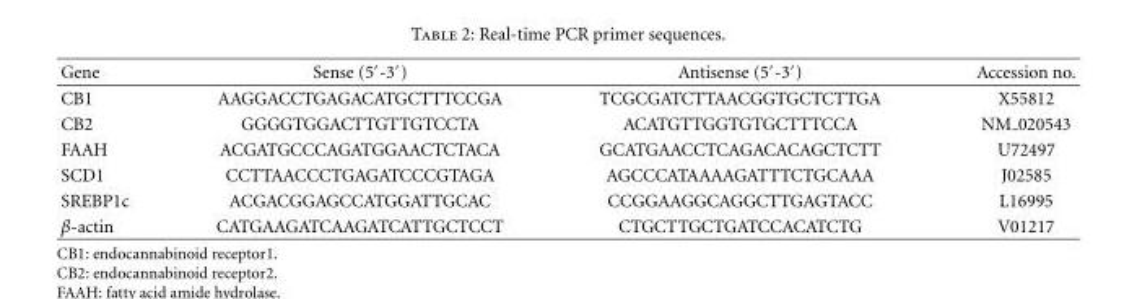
<table><thead><tr><td>Gene</td><td>Sense (5′-3′)</td><td>Antisense (5′-3′)</td><td>Accession no.</td></tr></thead><tbody><tr><td>CB1</td><td>AAGGACCTGAGACATGCTTTCCGA</td><td>TCGCGATCTTAACGGTGCTCTTGA</td><td>X55812</td></tr><tr><td>CB2</td><td>GGGGTGGACTTGTTGTCCTA</td><td>ACATGTTGGTGTGCTTTCCA</td><td>NM 020543</td></tr><tr><td>FAAH</td><td>ACGATGCCCAGATGGAACTCTACA</td><td>GCATGAACCTCAGACACAGCTCTT</td><td>U72497</td></tr><tr><td>SCD1</td><td>CCTTAACCCTGAGATCCCGTAGA</td><td>AGCCCATAAAAGATTTCTGCAAA</td><td>J02585</td></tr><tr><td>SREBP1c</td><td>ACGACGGAGCCATGGATTGCAC</td><td>CCGGAAGGCAGGCTTGAGTACC</td><td>L16995</td></tr><tr><td>β-actin</td><td>CATGAAGATCAAGATCATTGCTCCT</td><td>CTGCTTGCTGATCCACATCTG</td><td>V01217</td></tr></tbody></table>